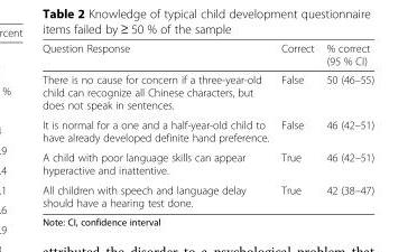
<table><thead><tr><td>Question Response</td><td>Correct</td><td>% correct (95 % CI)</td></tr></thead><tbody><tr><td>There is no cause for concern if a three-year-old child can recognize all Chinese characters, but does not speak in sentences.</td><td>False</td><td>50 (46–55)</td></tr><tr><td>It is normal for a one and a half-year-old child to have already developed definite hand preference.</td><td>False</td><td>46 (42–51)</td></tr><tr><td>A child with poor language skills can appear hyperactive and inattentive.</td><td>True</td><td>46 (42–51)</td></tr><tr><td>All children with speech and language delay should have a hearing test done.</td><td>True</td><td>42 (38–47)</td></tr></tbody></table>